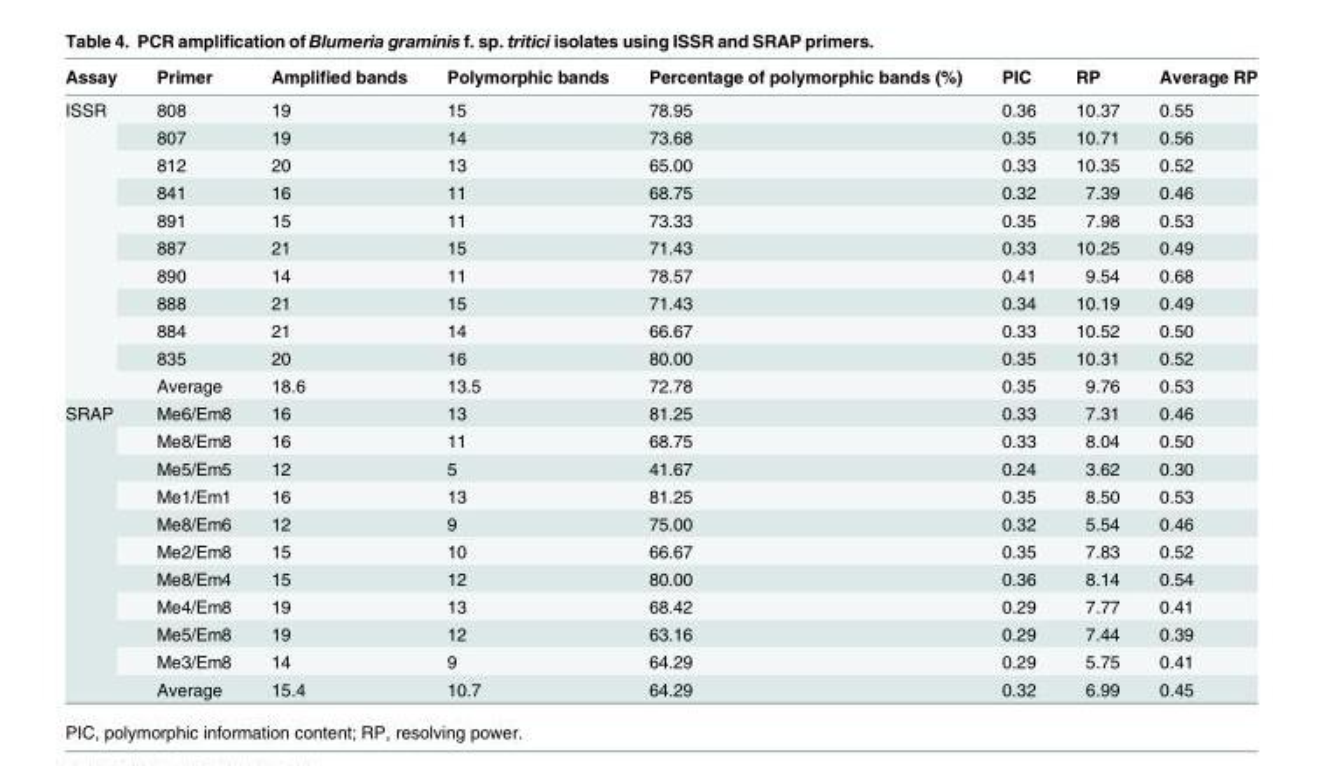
<table><thead><tr><td>Assay</td><td>Primer</td><td>Amplified bands</td><td>Polymorphic bands</td><td>Percentage of polymorphic bands (%)</td><td>PIC</td><td>RP</td><td>Average RP</td></tr></thead><tbody><tr><td rowspan="11">ISSR</td><td>808</td><td>19</td><td>15</td><td>78.95</td><td>0.36</td><td>10.37</td><td>0.55</td></tr><tr><td>807</td><td>19</td><td>14</td><td>73.68</td><td>0.35</td><td>10.71</td><td>0.56</td></tr><tr><td>812</td><td>20</td><td>13</td><td>65.00</td><td>0.33</td><td>10.35</td><td>0.52</td></tr><tr><td>841</td><td>16</td><td>11</td><td>68.75</td><td>0.32</td><td>7.39</td><td>0.46</td></tr><tr><td>891</td><td>15</td><td>11</td><td>73.33</td><td>0.35</td><td>7.98</td><td>0.53</td></tr><tr><td>887</td><td>21</td><td>15</td><td>71.43</td><td>0.33</td><td>10.25</td><td>0.49</td></tr><tr><td>890</td><td>14</td><td>11</td><td>78.57</td><td>0.41</td><td>9.54</td><td>0.68</td></tr><tr><td>888</td><td>21</td><td>15</td><td>71.43</td><td>0.34</td><td>10.19</td><td>0.49</td></tr><tr><td>884</td><td>21</td><td>14</td><td>66.67</td><td>0.33</td><td>10.52</td><td>0.50</td></tr><tr><td>835</td><td>20</td><td>16</td><td>80.00</td><td>0.35</td><td>10.31</td><td>0.52</td></tr><tr><td>Average</td><td>18.6</td><td>13.5</td><td>72.78</td><td>0.35</td><td>9.76</td><td>0.53</td></tr><tr><td rowspan="11">SRAP</td><td>Me6/Em8</td><td>16</td><td>13</td><td>81.25</td><td>0.33</td><td>7.31</td><td>0.46</td></tr><tr><td>Me8/Em8</td><td>16</td><td>11</td><td>68.75</td><td>0.33</td><td>8.04</td><td>0.50</td></tr><tr><td>Me5/Em5</td><td>12</td><td>5</td><td>41.67</td><td>0.24</td><td>3.62</td><td>0.30</td></tr><tr><td>Me1/Em1</td><td>16</td><td>13</td><td>81.25</td><td>0.35</td><td>8.50</td><td>0.53</td></tr><tr><td>Me8/Em6</td><td>12</td><td>9</td><td>75.00</td><td>0.32</td><td>5.54</td><td>0.46</td></tr><tr><td>Me2/Em8</td><td>15</td><td>10</td><td>66.67</td><td>0.35</td><td>7.83</td><td>0.52</td></tr><tr><td>Me8/Em4</td><td>15</td><td>12</td><td>80.00</td><td>0.36</td><td>8.14</td><td>0.54</td></tr><tr><td>Me4/Em8</td><td>19</td><td>13</td><td>68.42</td><td>0.29</td><td>7.77</td><td>0.41</td></tr><tr><td>Me5/Em8</td><td>19</td><td>12</td><td>63.16</td><td>0.29</td><td>7.44</td><td>0.39</td></tr><tr><td>Me3/Em8</td><td>14</td><td>9</td><td>64.29</td><td>0.29</td><td>5.75</td><td>0.41</td></tr><tr><td>Average</td><td>15.4</td><td>10.7</td><td>64.29</td><td>0.32</td><td>6.99</td><td>0.45</td></tr></tbody></table>